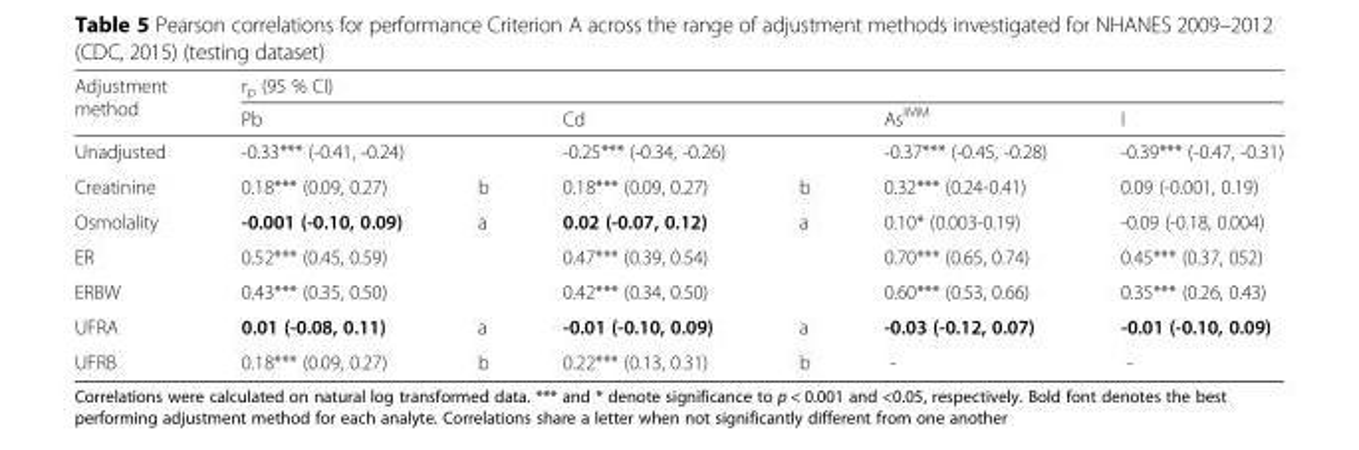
<table><thead><tr><td rowspan="3">Adjustment method Unadjusted</td><td colspan="6">r<sub>p</sub> (95 % CI)</td></tr><tr><td colspan="2">Pb</td><td colspan="2">Cd</td><td rowspan="2">As<sup>IMM</sup> -0.37*** (-0.45, -0.28)</td><td rowspan="2">I -0.39*** (-0.47, -0.31)</td></tr><tr><td>-0.33*** (-0.41, -0.24)</td><td></td><td>-0.25*** (-0.34, -0.26)</td><td></td></tr></thead><tbody><tr><td>Creatinine</td><td>0.18*** (0.09, 0.27)</td><td>b</td><td>0.18*** (0.09, 0.27)</td><td>b</td><td>0.32*** (0.24-0.41)</td><td>0.09 (-0.001, 0.19)</td></tr><tr><td>Osmolality</td><td>-0.001 (-0.10, 0.09)</td><td>a</td><td>0.02 (-0.07, 0.12)</td><td>a</td><td>0.10* (0.003-0.19)</td><td>-0.09 (-0.18, 0.004)</td></tr><tr><td>ER</td><td>0.52*** (0.45, 0.59)</td><td></td><td>0.47*** (0.39, 0.54)</td><td></td><td>0.70*** (0.65, 0.74)</td><td>0.45*** (0.37, 052)</td></tr><tr><td>ERBW</td><td>0.43*** (0.35, 0.50)</td><td></td><td>0.42*** (0.34, 0.50)</td><td></td><td>0.60*** (0.53, 0.66)</td><td>0.35*** (0.26, 0.43)</td></tr><tr><td>UFRA</td><td>0.01 (-0.08, 0.11)</td><td>a</td><td>-0.01 (-0.10, 0.09)</td><td>a</td><td>-0.03 (-0.12, 0.07)</td><td>-0.01 (-0.10, 0.09)</td></tr><tr><td>UFRB</td><td>0.18*** (0.09, 0.27)</td><td>b</td><td>0.22*** (0.13, 0.31)</td><td>b</td><td>-</td><td>-</td></tr></tbody></table>